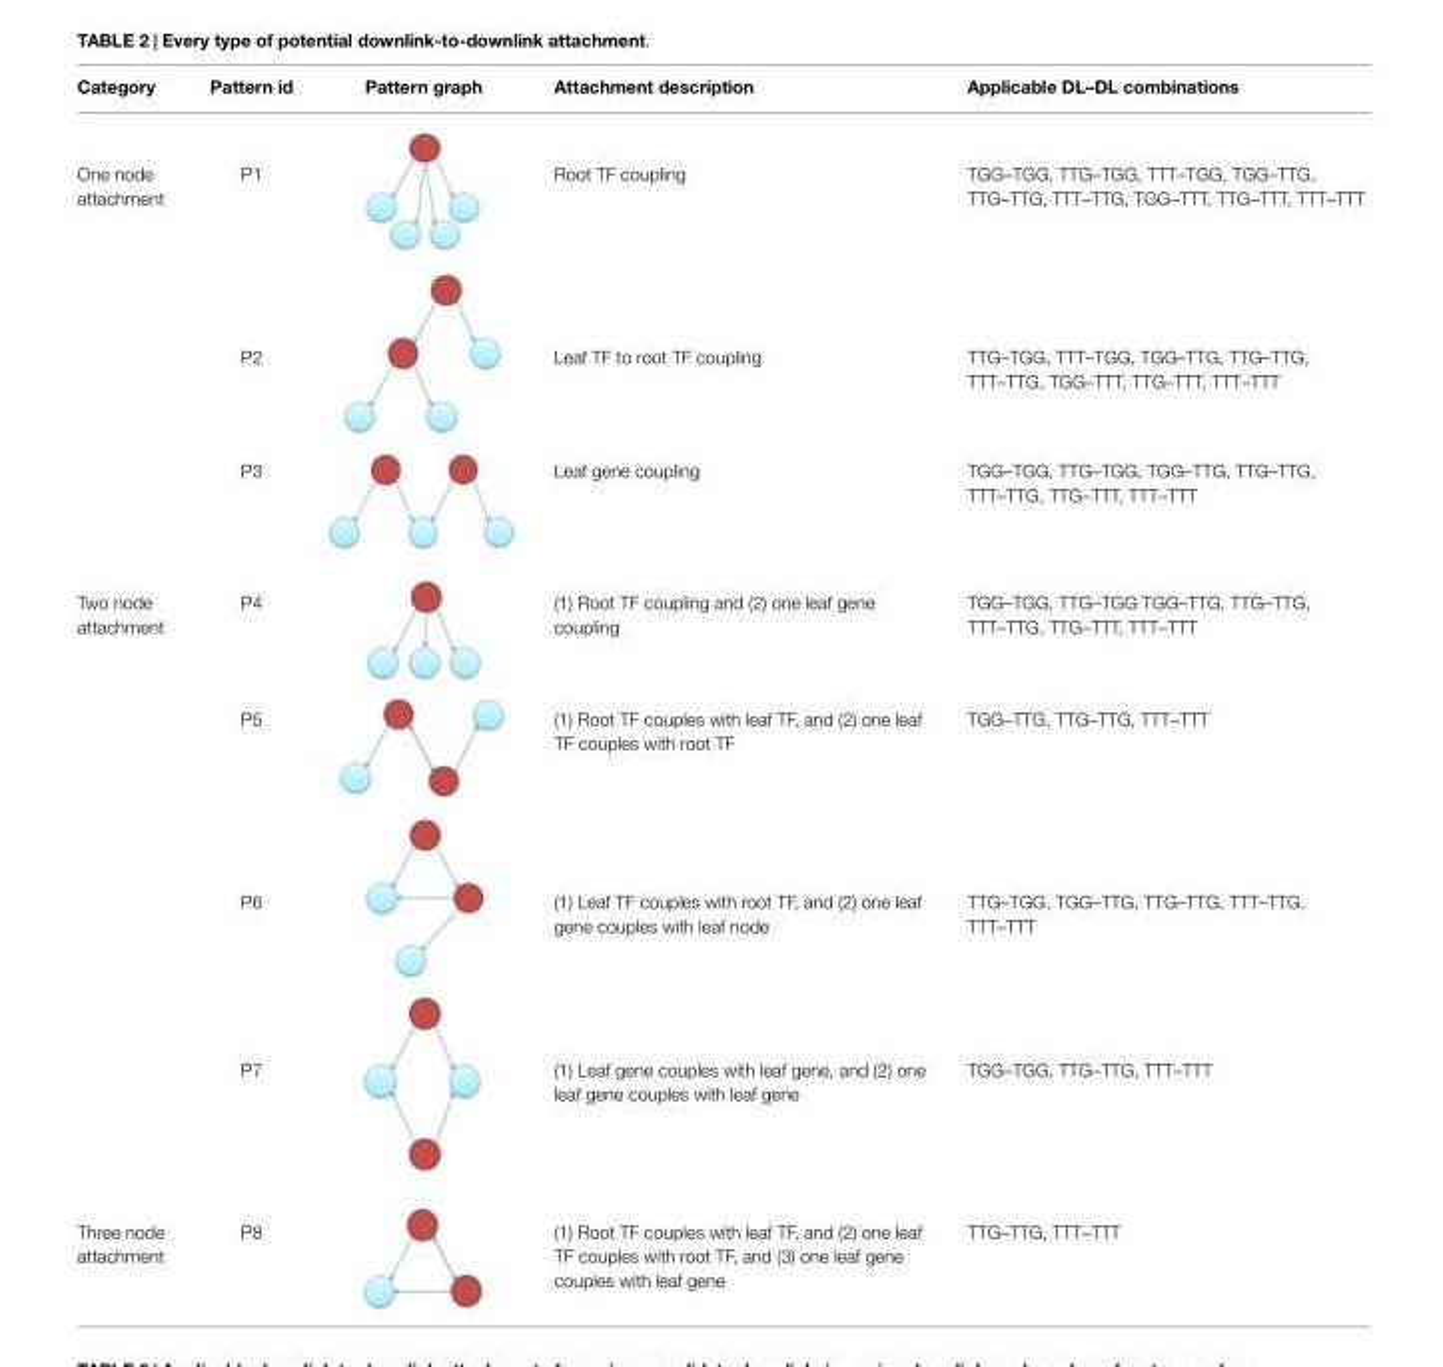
<table><thead><tr><td>Category</td><td>Pattern id</td><td>Pattern graph</td><td>Attachment description</td><td>Applicable DL–DL combinations</td></tr></thead><tbody><tr><td rowspan="3">One node attachment</td><td>P1</td><td></td><td>Root TF coupling</td><td>TGG–TGG, TTG–TGG, TTT–TGG, TGG–TTG, TTG–TTG, TTT–TTG, TGG–TTT, TTG–TTT, TTT–TTT</td></tr><tr><td>P2</td><td></td><td>Leaf TF to root TF coupling</td><td>TTG–TGG, TTT–TGG, TGG–TTG, TTG–TTG, TTT–TTG, TGG–TTT, TTG–TTT, TTT–TTT</td></tr><tr><td>P3</td><td></td><td>Leaf gene coupling</td><td>TGG–TGG, TTG–TGG, TGG–TTG, TTG–TTG, TTT–TTG, TTG–TTT, TTT–TTT</td></tr><tr><td rowspan="4">Two node attachment</td><td>P4</td><td></td><td>(1) Root TF coupling and (2) one leaf gene coupling</td><td>TGG–TGG, TTG–TGG TGG–TTG, TTG–TTG, TTT–TTG, TTG–TTT, TTT–TTT</td></tr><tr><td>P5</td><td></td><td>(1) Root TF couples with leaf TF, and (2) one leaf TF couples with root TF</td><td>TGG–TTG, TTG–TTG, TTT–TTT</td></tr><tr><td>P6</td><td></td><td>(1) Leaf TF couples with root TF, and (2) one leaf gene couples with leaf node</td><td>TTG–TGG, TGG–TTG, TTG–TTG, TTT–TTG, TTT–TTT</td></tr><tr><td>P7</td><td></td><td>(1) Leaf gene couples with leaf gene, and (2) one leaf gene couples with leaf gene</td><td>TGG–TGG, TTG–TTG, TTT–TTT</td></tr><tr><td>Three node attachment</td><td>P8</td><td></td><td>(1) Root TF couples with leaf TF, and (2) one leaf TF couples with root TF, and (3) one leaf gene couples with leaf gene</td><td>TTG–TTG, TTT–TTT</td></tr></tbody></table>